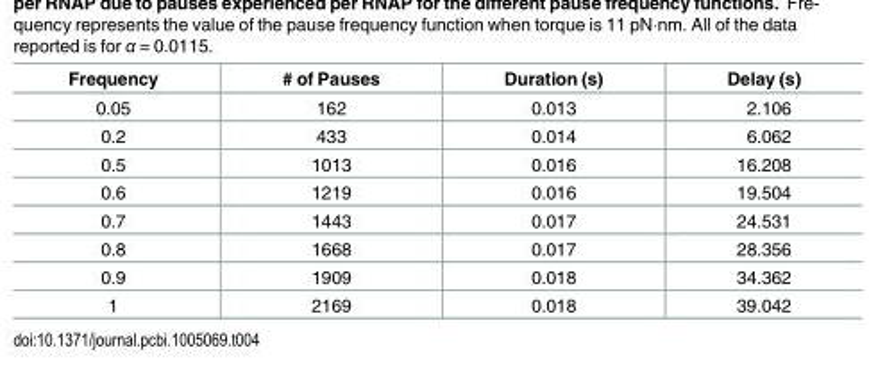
<table><thead><tr><td>Frequency</td><td># of Pauses</td><td>Duration (s)</td><td>Delay (s)</td></tr></thead><tbody><tr><td>0.05</td><td>162</td><td>0.013</td><td>2.106</td></tr><tr><td>0.2</td><td>433</td><td>0.014</td><td>6.062</td></tr><tr><td>0.5</td><td>1013</td><td>0.016</td><td>16.208</td></tr><tr><td>0.6</td><td>1219</td><td>0.016</td><td>19.504</td></tr><tr><td>0.7</td><td>1443</td><td>0.017</td><td>24.531</td></tr><tr><td>0.8</td><td>1668</td><td>0.017</td><td>28.356</td></tr><tr><td>0.9</td><td>1909</td><td>0.018</td><td>34.362</td></tr><tr><td>1</td><td>2169</td><td>0.018</td><td>39.042</td></tr></tbody></table>